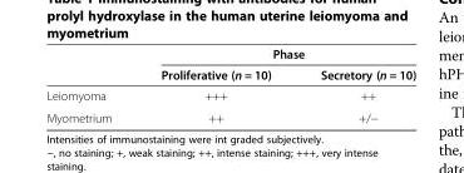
<table><thead><tr><td rowspan="2"></td><td colspan="2">Phase</td></tr><tr><td>Proliferative (n = 10)</td><td>Secretory (n = 10)</td></tr></thead><tbody><tr><td>Leiomyoma</td><td>+++</td><td>++</td></tr><tr><td>Myometrium</td><td>++</td><td>+/−</td></tr></tbody></table>